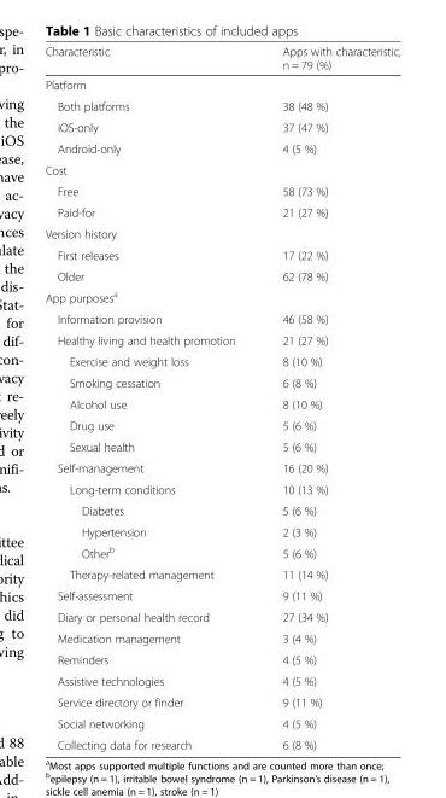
<table><thead><tr><td>Characteristic</td><td>Apps with characteristic, n = 79 (%)</td></tr></thead><tbody><tr><td colspan="2">Platform</td></tr><tr><td>Both platforms</td><td>38 (48 %)</td></tr><tr><td>iOS-only</td><td>37 (47 %)</td></tr><tr><td>Android-only</td><td>4 (5 %)</td></tr><tr><td colspan="2">Cost</td></tr><tr><td>Free</td><td>58 (73 %)</td></tr><tr><td>Paid-for</td><td>21 (27 %)</td></tr><tr><td colspan="2">Version history</td></tr><tr><td>First releases</td><td>17 (22 %)</td></tr><tr><td>Older</td><td>62 (78 %)</td></tr><tr><td colspan="2">App purposes<sup>a</sup></td></tr><tr><td>Information provision</td><td>46 (58 %)</td></tr><tr><td>Healthy living and health promotion</td><td>21 (27 %)</td></tr><tr><td>Exercise and weight loss</td><td>8 (10 %)</td></tr><tr><td>Smoking cessation</td><td>6 (8 %)</td></tr><tr><td>Alcohol use</td><td>8 (10 %)</td></tr><tr><td>Drug use</td><td>5 (6 %)</td></tr><tr><td>Sexual health</td><td>5 (6 %)</td></tr><tr><td>Self-management</td><td>16 (20 %)</td></tr><tr><td>Long-term conditions</td><td>10 (13 %)</td></tr><tr><td>Diabetes</td><td>5 (6 %)</td></tr><tr><td>Hypertension</td><td>2 (3 %)</td></tr><tr><td>Other<sup>b</sup></td><td>5 (6 %)</td></tr><tr><td>Therapy-related management</td><td>11 (14 %)</td></tr><tr><td>Self-assessment</td><td>9 (11 %)</td></tr><tr><td>Diary or personal health record</td><td>27 (34 %)</td></tr><tr><td>Medication management</td><td>3 (4 %)</td></tr><tr><td>Reminders</td><td>4 (5 %)</td></tr><tr><td>Assistive technologies</td><td>4 (5 %)</td></tr><tr><td>Service directory or finder</td><td>9 (11 %)</td></tr><tr><td>Social networking</td><td>4 (5 %)</td></tr><tr><td>Collecting data for research</td><td>6 (8 %)</td></tr></tbody></table>